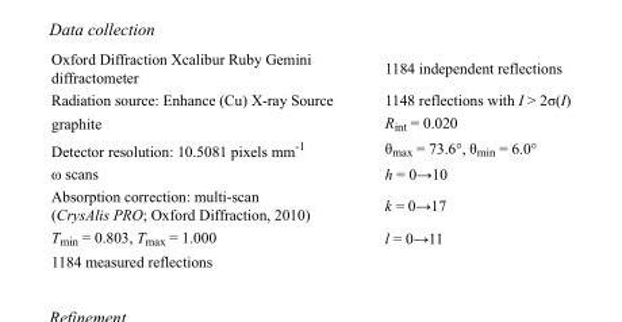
<table><tbody><tr><td>Oxford Diffraction Xcalibur Ruby Gemini diffractometer</td><td>1184 independent reflections</td></tr><tr><td>Radiation source: Enhance (Cu) X-ray Source</td><td>1148 reflections with I &gt; 2σ(I)</td></tr><tr><td>graphite</td><td>R<sub>int</sub> = 0.020</td></tr><tr><td>Detector resolution: 10.5081 pixels mm<sup>-1</sup></td><td>θ<sub>max</sub> = 73.6°, θ<sub>min</sub> = 6.0°</td></tr><tr><td>ω scans</td><td>h = 0→10</td></tr><tr><td>Absorption correction: multi-scan (CrysAlis PRO; Oxford Diffraction, 2010)</td><td>k = 0→17</td></tr><tr><td>T<sub>min</sub> = 0.803, T<sub>max</sub> = 1.000</td><td>l = 0→11</td></tr><tr><td>1184 measured reflections</td><td></td></tr></tbody></table>